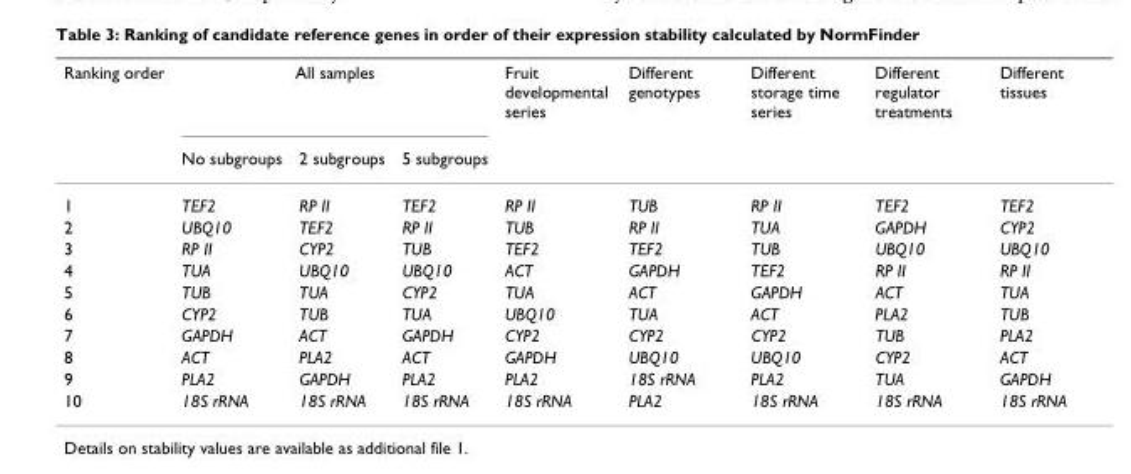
<table><thead><tr><td rowspan="2">Ranking order</td><td colspan="3">All samples</td><td rowspan="2">Fruit developmental series</td><td rowspan="2">Different genotypes</td><td rowspan="2">Different storage time series</td><td rowspan="2">Different regulator treatments</td><td rowspan="2">Different tissues</td></tr><tr><td>No subgroups</td><td>2 subgroups</td><td>5 subgroups</td></tr></thead><tbody><tr><td>1</td><td>TEF2</td><td>RP II</td><td>TEF2</td><td>RP II</td><td>TUB</td><td>RP II</td><td>TEF2</td><td>TEF2</td></tr><tr><td>2</td><td>UBQ10</td><td>TEF2</td><td>RP II</td><td>TUB</td><td>RP II</td><td>TUA</td><td>GAPDH</td><td>CYP2</td></tr><tr><td>3</td><td>RP II</td><td>CYP2</td><td>TUB</td><td>TEF2</td><td>TEF2</td><td>TUB</td><td>UBQ10</td><td>UBQ10</td></tr><tr><td>4</td><td>TUA</td><td>UBQ10</td><td>UBQ10</td><td>ACT</td><td>GAPDH</td><td>TEF2</td><td>RP II</td><td>RP II</td></tr><tr><td>5</td><td>TUB</td><td>TUA</td><td>CYP2</td><td>TUA</td><td>ACT</td><td>GAPDH</td><td>ACT</td><td>TUA</td></tr><tr><td>6</td><td>CYP2</td><td>TUB</td><td>TUA</td><td>UBQ10</td><td>TUA</td><td>ACT</td><td>PLA2</td><td>TUB</td></tr><tr><td>7</td><td>GAPDH</td><td>ACT</td><td>GAPDH</td><td>CYP2</td><td>CYP2</td><td>CYP2</td><td>TUB</td><td>PLA2</td></tr><tr><td>8</td><td>ACT</td><td>PLA2</td><td>ACT</td><td>GAPDH</td><td>UBQ10</td><td>UBQ10</td><td>CYP2</td><td>ACT</td></tr><tr><td>9</td><td>PLA2</td><td>GAPDH</td><td>PLA2</td><td>PLA2</td><td>18S rRNA</td><td>PLA2</td><td>TUA</td><td>GAPDH</td></tr><tr><td>10</td><td>18S rRNA</td><td>18S rRNA</td><td>18S rRNA</td><td>18S rRNA</td><td>PLA2</td><td>18S rRNA</td><td>18S rRNA</td><td>18S rRNA</td></tr></tbody></table>